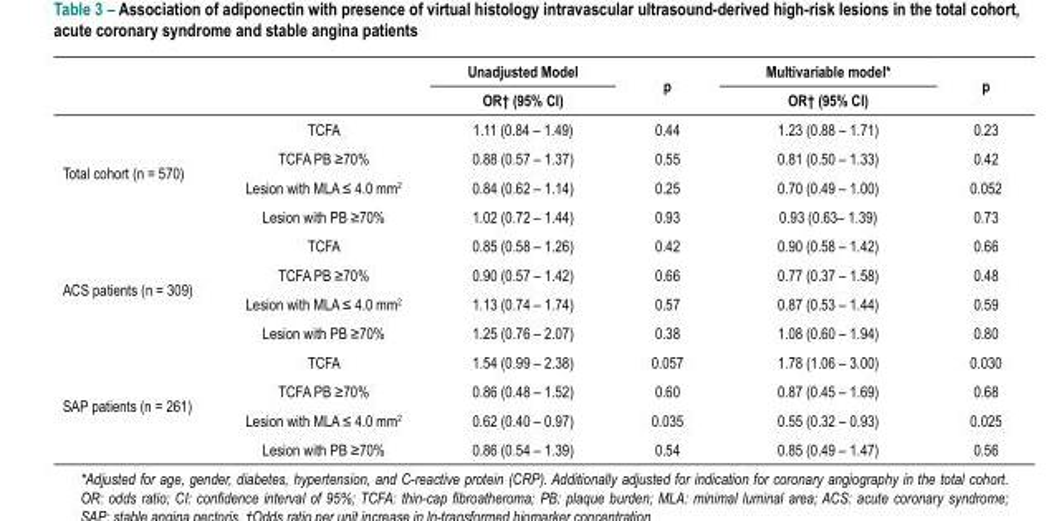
<table><thead><tr><td rowspan="2"></td><td rowspan="2"></td><td rowspan="2">Unadjusted Model OR† (95% CI)</td><td rowspan="2">p</td><td rowspan="2">Multivariable model* OR† (95% CI)</td><td rowspan="2">p</td></tr><tr></tr></thead><tbody><tr><td rowspan="4">Total cohort (n = 570)</td><td>TCFA</td><td>1.11 (0.84 – 1.49)</td><td>0.44</td><td>1.23 (0.88 – 1.71)</td><td>0.23</td></tr><tr><td>TCFA PB ≥70%</td><td>0.88 (0.57 – 1.37)</td><td>0.55</td><td>0.81 (0.50 – 1.33)</td><td>0.42</td></tr><tr><td>Lesion with MLA ≤ 4.0 mm<sup>2</sup></td><td>0.84 (0.62 – 1.14)</td><td>0.25</td><td>0.70 (0.49 – 1.00)</td><td>0.052</td></tr><tr><td>Lesion with PB ≥70%</td><td>1.02 (0.72 – 1.44)</td><td>0.93</td><td>0.93 (0.63– 1.39)</td><td>0.73</td></tr><tr><td rowspan="4">ACS patients (n = 309)</td><td>TCFA</td><td>0.85 (0.58 – 1.26)</td><td>0.42</td><td>0.90 (0.58 – 1.42)</td><td>0.66</td></tr><tr><td>TCFA PB ≥70%</td><td>0.90 (0.57 – 1.42)</td><td>0.66</td><td>0.77 (0.37 – 1.58)</td><td>0.48</td></tr><tr><td>Lesion with MLA ≤ 4.0 mm<sup>2</sup></td><td>1.13 (0.74 – 1.74)</td><td>0.57</td><td>0.87 (0.53 – 1.44)</td><td>0.59</td></tr><tr><td>Lesion with PB ≥70%</td><td>1.25 (0.76 – 2.07)</td><td>0.38</td><td>1.08 (0.60 – 1.94)</td><td>0.80</td></tr><tr><td rowspan="4">SAP patients (n = 261)</td><td>TCFA</td><td>1.54 (0.99 – 2.38)</td><td>0.057</td><td>1.78 (1.06 – 3.00)</td><td>0.030</td></tr><tr><td>TCFA PB ≥70%</td><td>0.86 (0.48 – 1.52)</td><td>0.60</td><td>0.87 (0.45 – 1.69)</td><td>0.68</td></tr><tr><td>Lesion with MLA ≤ 4.0 mm<sup>2</sup></td><td>0.62 (0.40 – 0.97)</td><td>0.035</td><td>0.55 (0.32 – 0.93)</td><td>0.025</td></tr><tr><td>Lesion with PB ≥70%</td><td>0.86 (0.54 – 1.39)</td><td>0.54</td><td>0.85 (0.49 – 1.47)</td><td>0.56</td></tr></tbody></table>